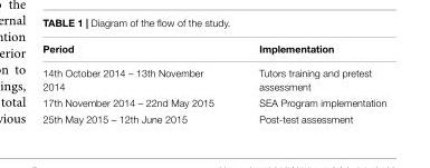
<table><thead><tr><td>Period</td><td>Implementation</td></tr></thead><tbody><tr><td>14th October 2014 – 13th November 2014</td><td>Tutors training and pretest assessment</td></tr><tr><td>17th November 2014 – 22nd May 2015</td><td>SEA Program implementation</td></tr><tr><td>25th May 2015 – 12th June 2015</td><td>Post-test assessment</td></tr></tbody></table>